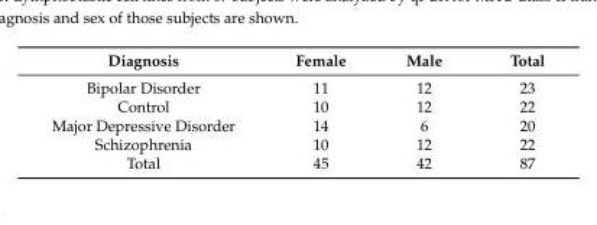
<table><thead><tr><td>Diagnosis</td><td>Female</td><td>Male</td><td>Total</td></tr></thead><tbody><tr><td>Bipolar Disorder</td><td>11</td><td>12</td><td>23</td></tr><tr><td>Control</td><td>10</td><td>12</td><td>22</td></tr><tr><td>Major Depressive Disorder</td><td>14</td><td>6</td><td>20</td></tr><tr><td>Schizophrenia</td><td>10</td><td>12</td><td>22</td></tr><tr><td>Total</td><td>45</td><td>42</td><td>87</td></tr></tbody></table>